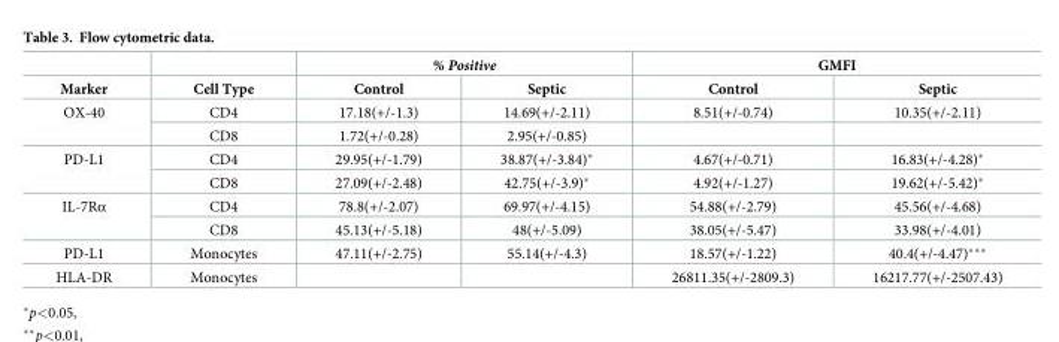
<table><thead><tr><td rowspan="2">Marker</td><td rowspan="2">Cell Type</td><td colspan="2">% Positive</td><td colspan="2">GMFI</td></tr><tr><td>Control</td><td>Septic</td><td>Control</td><td>Septic</td></tr></thead><tbody><tr><td rowspan="2">OX-40</td><td>CD4</td><td>17.18(+/-1.3)</td><td>14.69(+/-2.11)</td><td>8.51(+/-0.74)</td><td>10.35(+/-2.11)</td></tr><tr><td>CD8</td><td>1.72(+/-0.28)</td><td>2.95(+/-0.85)</td><td></td><td></td></tr><tr><td rowspan="2">PD-L1</td><td>CD4</td><td>29.95(+/-1.79)</td><td>38.87(+/-3.84)*</td><td>4.67(+/-0.71)</td><td>16.83(+/-4.28)*</td></tr><tr><td>CD8</td><td>27.09(+/-2.48)</td><td>42.75(+/-3.9)*</td><td>4.92(+/-1.27)</td><td>19.62(+/-5.42)*</td></tr><tr><td rowspan="2">IL-7Rα</td><td>CD4</td><td>78.8(+/-2.07)</td><td>69.97(+/-4.15)</td><td>54.88(+/-2.79)</td><td>45.56(+/-4.68)</td></tr><tr><td>CD8</td><td>45.13(+/-5.18)</td><td>48(+/-5.09)</td><td>38.05(+/-5.47)</td><td>33.98(+/-4.01)</td></tr><tr><td>PD-L1</td><td>Monocytes</td><td>47.11(+/-2.75)</td><td>55.14(+/-4.3)</td><td>18.57(+/-1.22)</td><td>40.4(+/-4.47)***</td></tr><tr><td>HLA-DR</td><td>Monocytes</td><td></td><td></td><td>26811.35(+/-2809.3)</td><td>16217.77(+/-2507.43)</td></tr></tbody></table>